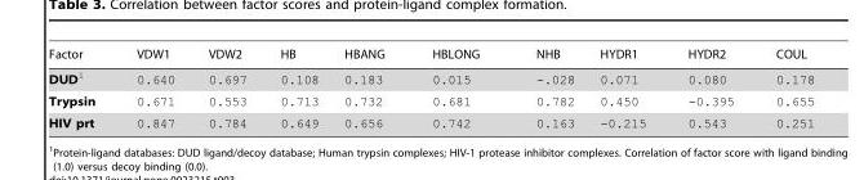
<table><thead><tr><td>Factor</td><td>VDW1</td><td>VDW2</td><td>HB</td><td>HBANG</td><td>HBLONG</td><td>NHB</td><td>HYDR1</td><td>HYDR2</td><td>COUL</td></tr></thead><tbody><tr><td>DUD1</td><td>0.640</td><td>0.697</td><td>0.108</td><td>0.183</td><td>0.015</td><td>-.028</td><td>0.071</td><td>0.080</td><td>0.178</td></tr><tr><td>Trypsin</td><td>0.671</td><td>0.553</td><td>0.713</td><td>0.732</td><td>0.681</td><td>0.782</td><td>0.450</td><td>-0.395</td><td>0.655</td></tr><tr><td>HIV prt</td><td>0.847</td><td>0.784</td><td>0.649</td><td>0.656</td><td>0.742</td><td>0.163</td><td>-0.215</td><td>0.543</td><td>0.251</td></tr></tbody></table>